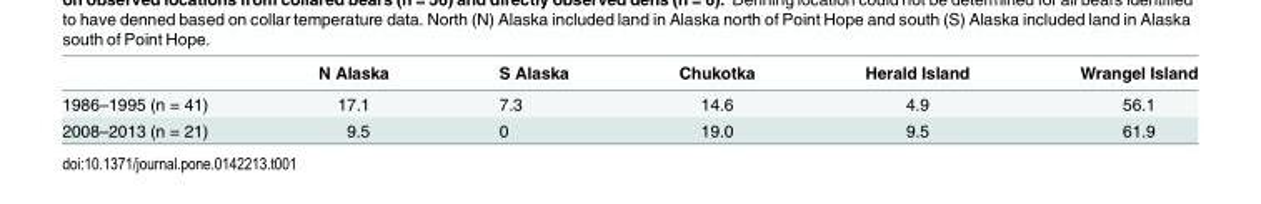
<table><thead><tr><td></td><td>N Alaska</td><td>S Alaska</td><td>Chukotka</td><td>Herald Island</td><td>Wrangel Island</td></tr></thead><tbody><tr><td>1986–1995 (n = 41)</td><td>17.1</td><td>7.3</td><td>14.6</td><td>4.9</td><td>56.1</td></tr><tr><td>2008–2013 (n = 21)</td><td>9.5</td><td>0</td><td>19.0</td><td>9.5</td><td>61.9</td></tr></tbody></table>